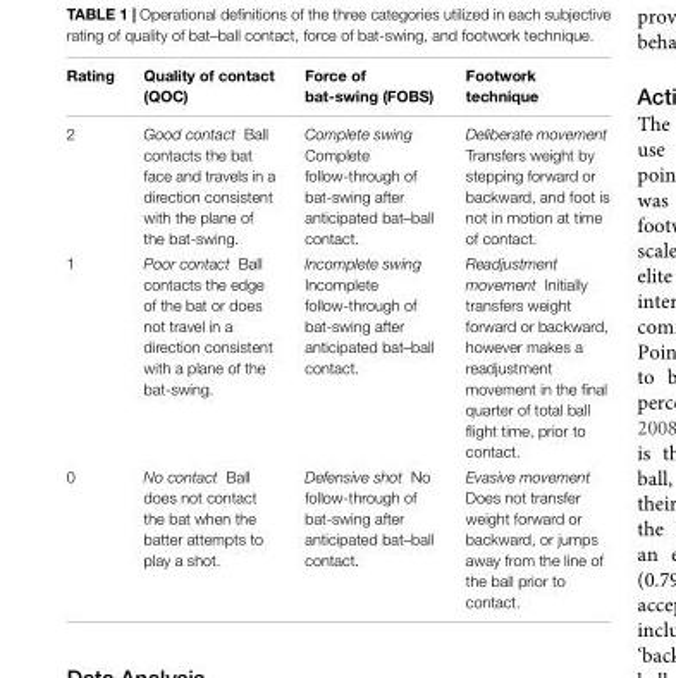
<table><thead><tr><td>Rating</td><td>Quality of contact (QOC)</td><td>Force of bat-swing (FOBS)</td><td>Footwork technique</td></tr></thead><tbody><tr><td>2</td><td>Good contact Ball contacts the bat face and travels in a direction consistent with the plane of the bat-swing.</td><td>Complete swing Complete follow-through of bat-swing after anticipated bat–ball contact.</td><td>Deliberate movement Transfers weight by stepping forward or backward, and foot is not in motion at time of contact.</td></tr><tr><td>1</td><td>Poor contact Ball contacts the edge of the bat or does not travel in a direction consistent with a plane of the bat-swing.</td><td>Incomplete swing Incomplete follow-through of bat-swing after anticipated bat–ball contact.</td><td>Readjustment movement Initially transfers weight forward or backward, however makes a readjustment movement in the final quarter of total ball flight time, prior to contact.</td></tr><tr><td>0</td><td>No contact Ball does not contact the bat when the batter attempts to play a shot.</td><td>Defensive shot No follow-through of bat-swing after anticipated bat–ball contact.</td><td>Evasive movement Does not transfer weight forward or backward, or jumps away from the line of the ball prior to contact.</td></tr></tbody></table>